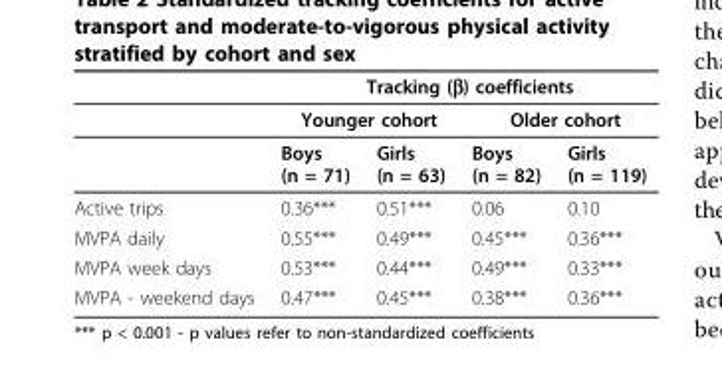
<table><thead><tr><td rowspan="3"></td><td colspan="4">Tracking (β) coefficients</td></tr><tr><td colspan="2">Younger cohort</td><td colspan="2">Older cohort</td></tr><tr><td>Boys (n = 71)</td><td>Girls (n = 63)</td><td>Boys (n = 82)</td><td>Girls (n = 119)</td></tr></thead><tbody><tr><td>Active trips</td><td>0.36***</td><td>0.51***</td><td>0.06</td><td>0.10</td></tr><tr><td>MVPA daily</td><td>0.55***</td><td>0.49***</td><td>0.45***</td><td>0.36***</td></tr><tr><td>MVPA week days</td><td>0.53***</td><td>0.44***</td><td>0.49***</td><td>0.33***</td></tr><tr><td>MVPA - weekend days</td><td>0.47***</td><td>0.45***</td><td>0.38***</td><td>0.36***</td></tr></tbody></table>